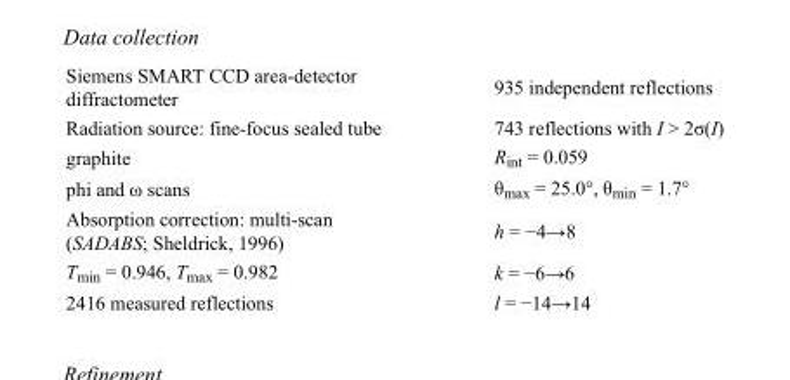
<table><tbody><tr><td>Siemens SMART CCD area-detector diffractometer</td><td>935 independent reflections</td></tr><tr><td>Radiation source: fine-focus sealed tube</td><td>743 reflections with I &gt; 2σ(I)</td></tr><tr><td>graphite</td><td>R<sub>int</sub> = 0.059</td></tr><tr><td>phi and ω scans</td><td>θ<sub>max</sub> = 25.0°, θ<sub>min</sub> = 1.7°</td></tr><tr><td>Absorption correction: multi-scan (SADABS; Sheldrick, 1996)</td><td>h = −4→8</td></tr><tr><td>T<sub>min</sub> = 0.946, T<sub>max</sub> = 0.982</td><td>k = −6→6</td></tr><tr><td>2416 measured reflections</td><td>l = −14→14</td></tr></tbody></table>